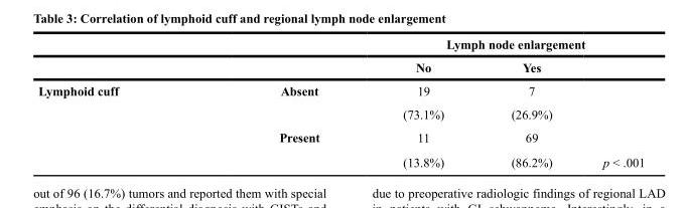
<table><thead><tr><td rowspan="2"></td><td rowspan="2"></td><td colspan="3">Lymph node enlargement</td></tr><tr><td>No</td><td>Yes</td><td></td></tr></thead><tbody><tr><td rowspan="4">Lymphoid cuff</td><td>Absent</td><td>19</td><td>7</td><td></td></tr><tr><td></td><td>(73.1%)</td><td>(26.9%)</td><td></td></tr><tr><td>Present</td><td>11</td><td>69</td><td></td></tr><tr><td></td><td>(13.8%)</td><td>(86.2%)</td><td>p &lt; .001</td></tr></tbody></table>